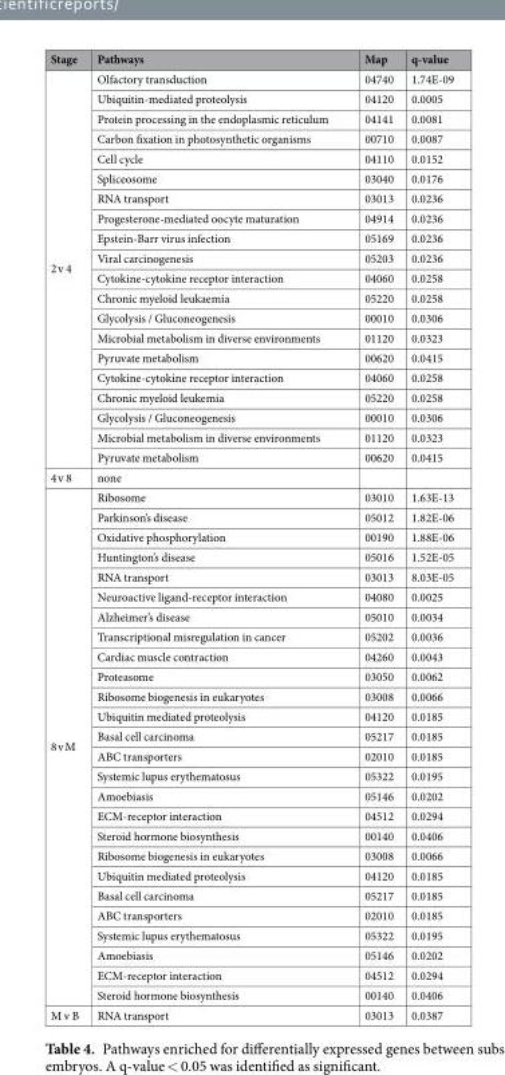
<table><thead><tr><td>Stage</td><td>Pathways</td><td>Map</td><td>q-value</td></tr></thead><tbody><tr><td rowspan="20">2 v 4</td><td>Olfactory transduction</td><td>04740</td><td>1.74E-09</td></tr><tr><td>Ubiquitin-mediated proteolysis</td><td>04120</td><td>0.0005</td></tr><tr><td>Protein processing in the endoplasmic reticulum</td><td>04141</td><td>0.0081</td></tr><tr><td>Carbon fixation in photosynthetic organisms</td><td>00710</td><td>0.0087</td></tr><tr><td>Cell cycle</td><td>04110</td><td>0.0152</td></tr><tr><td>Spliceosome</td><td>03040</td><td>0.0176</td></tr><tr><td>RNA transport</td><td>03013</td><td>0.0236</td></tr><tr><td>Progesterone-mediated oocyte maturation</td><td>04914</td><td>0.0236</td></tr><tr><td>Epstein-Barr virus infection</td><td>05169</td><td>0.0236</td></tr><tr><td>Viral carcinogenesis</td><td>05203</td><td>0.0236</td></tr><tr><td>Cytokine-cytokine receptor interaction</td><td>04060</td><td>0.0258</td></tr><tr><td>Chronic myeloid leukaemia</td><td>05220</td><td>0.0258</td></tr><tr><td>Glycolysis / Gluconeogenesis</td><td>00010</td><td>0.0306</td></tr><tr><td>Microbial metabolism in diverse environments</td><td>01120</td><td>0.0323</td></tr><tr><td>Pyruvate metabolism</td><td>00620</td><td>0.0415</td></tr><tr><td>Cytokine-cytokine receptor interaction</td><td>04060</td><td>0.0258</td></tr><tr><td>Chronic myeloid leukemia</td><td>05220</td><td>0.0258</td></tr><tr><td>Glycolysis / Gluconeogenesis</td><td>00010</td><td>0.0306</td></tr><tr><td>Microbial metabolism in diverse environments</td><td>01120</td><td>0.0323</td></tr><tr><td>Pyruvate metabolism</td><td>00620</td><td>0.0415</td></tr><tr><td>4 v 8</td><td>none</td><td></td><td></td></tr><tr><td rowspan="26">8 v M</td><td>Ribosome</td><td>03010</td><td>1.63E-13</td></tr><tr><td>Parkinson’s disease</td><td>05012</td><td>1.82E-06</td></tr><tr><td>Oxidative phosphorylation</td><td>00190</td><td>1.88E-06</td></tr><tr><td>Huntington’s disease</td><td>05016</td><td>1.52E-05</td></tr><tr><td>RNA transport</td><td>03013</td><td>8.03E-05</td></tr><tr><td>Neuroactive ligand-receptor interaction</td><td>04080</td><td>0.0025</td></tr><tr><td>Alzheimer’s disease</td><td>05010</td><td>0.0034</td></tr><tr><td>Transcriptional misregulation in cancer</td><td>05202</td><td>0.0036</td></tr><tr><td>Cardiac muscle contraction</td><td>04260</td><td>0.0043</td></tr><tr><td>Proteasome</td><td>03050</td><td>0.0062</td></tr><tr><td>Ribosome biogenesis in eukaryotes</td><td>03008</td><td>0.0066</td></tr><tr><td>Ubiquitin mediated proteolysis</td><td>04120</td><td>0.0185</td></tr><tr><td>Basal cell carcinoma</td><td>05217</td><td>0.0185</td></tr><tr><td>ABC transporters</td><td>02010</td><td>0.0185</td></tr><tr><td>Systemic lupus erythematosus</td><td>05322</td><td>0.0195</td></tr><tr><td>Amoebiasis</td><td>05146</td><td>0.0202</td></tr><tr><td>ECM-receptor interaction</td><td>04512</td><td>0.0294</td></tr><tr><td>Steroid hormone biosynthesis</td><td>00140</td><td>0.0406</td></tr><tr><td>Ribosome biogenesis in eukaryotes</td><td>03008</td><td>0.0066</td></tr><tr><td>Ubiquitin mediated proteolysis</td><td>04120</td><td>0.0185</td></tr><tr><td>Basal cell carcinoma</td><td>05217</td><td>0.0185</td></tr><tr><td>ABC transporters</td><td>02010</td><td>0.0185</td></tr><tr><td>Systemic lupus erythematosus</td><td>05322</td><td>0.0195</td></tr><tr><td>Amoebiasis</td><td>05146</td><td>0.0202</td></tr><tr><td>ECM-receptor interaction</td><td>04512</td><td>0.0294</td></tr><tr><td>Steroid hormone biosynthesis</td><td>00140</td><td>0.0406</td></tr><tr><td>M v B</td><td>RNA transport</td><td>03013</td><td>0.0387</td></tr></tbody></table>